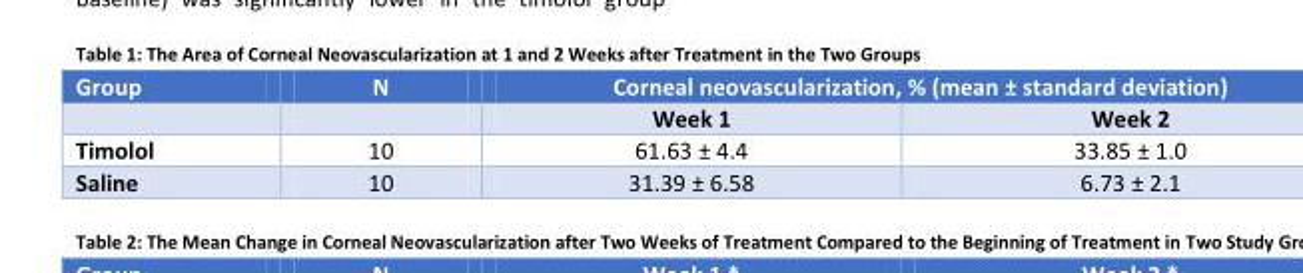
<table><thead><tr><td rowspan="2">puorG</td><td rowspan="2">N</td><td colspan="2">Corneal neovascularization, % (mean ± standard deviation)</td></tr><tr><td>Week 1</td><td>Week 2</td></tr></thead><tbody><tr><td>Timolol</td><td>10</td><td>61.63 ± 4.4</td><td>33.85 ± 1.0</td></tr><tr><td>Saline</td><td>10</td><td>31.39 ± 6.58</td><td>6.73 ± 2.1</td></tr></tbody></table>